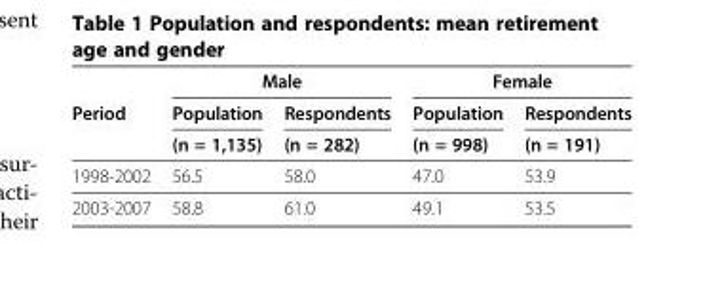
<table><thead><tr><td rowspan="3">Period</td><td colspan="2">Male</td><td colspan="2">Female</td></tr><tr><td rowspan="2">Population (n = 1,135)</td><td rowspan="2">Respondents (n = 282)</td><td rowspan="2">Population (n = 998)</td><td rowspan="2">Respondents (n = 191)</td></tr><tr></tr></thead><tbody><tr><td>1998-2002</td><td>56.5</td><td>58.0</td><td>47.0</td><td>53.9</td></tr><tr><td>2003-2007</td><td>58.8</td><td>61.0</td><td>49.1</td><td>53.5</td></tr></tbody></table>